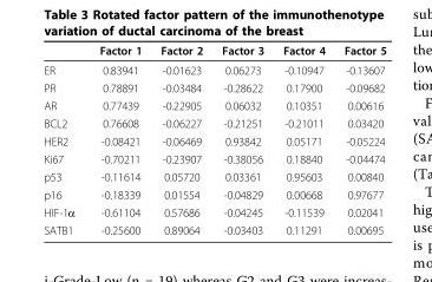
<table><thead><tr><td></td><td>Factor 1</td><td>Factor 2</td><td>Factor 3</td><td>Factor 4</td><td>Factor 5</td></tr></thead><tbody><tr><td>ER</td><td>0.83941</td><td>-0.01623</td><td>0.06273</td><td>-0.10947</td><td>-0.13607</td></tr><tr><td>PR</td><td>0.78891</td><td>-0.03484</td><td>-0.28622</td><td>0.17900</td><td>-0.09682</td></tr><tr><td>AR</td><td>0.77439</td><td>-0.22905</td><td>0.06032</td><td>0.10351</td><td>0.00616</td></tr><tr><td>BCL2</td><td>0.76608</td><td>-0.06227</td><td>-0.21251</td><td>-0.21011</td><td>0.03420</td></tr><tr><td>HER2</td><td>-0.08421</td><td>-0.06469</td><td>0.93842</td><td>0.05171</td><td>-0.05224</td></tr><tr><td>Ki67</td><td>-0.70211</td><td>-0.23907</td><td>-0.38056</td><td>0.18840</td><td>-0.04474</td></tr><tr><td>p53</td><td>-0.11614</td><td>0.05720</td><td>0.03361</td><td>0.95603</td><td>0.00840</td></tr><tr><td>p16</td><td>-0.18339</td><td>0.01554</td><td>-0.04829</td><td>0.00668</td><td>0.97677</td></tr><tr><td>HIF-1α</td><td>-0.61104</td><td>0.57686</td><td>-0.04245</td><td>-0.11539</td><td>0.02041</td></tr><tr><td>SATB1</td><td>-0.25600</td><td>0.89064</td><td>-0.03403</td><td>0.11291</td><td>0.00695</td></tr></tbody></table>